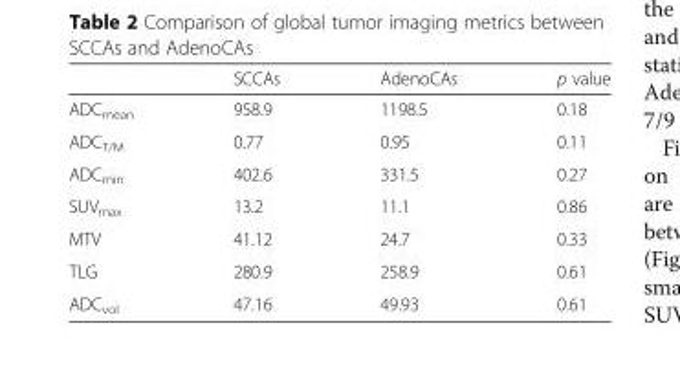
<table><thead><tr><td></td><td>SCCAs</td><td>AdenoCAs</td><td>p value</td></tr></thead><tbody><tr><td>ADC<sub>mean</sub></td><td>958.9</td><td>1198.5</td><td>0.18</td></tr><tr><td>ADC<sub>T/M</sub></td><td>0.77</td><td>0.95</td><td>0.11</td></tr><tr><td>ADC<sub>min</sub></td><td>402.6</td><td>331.5</td><td>0.27</td></tr><tr><td>SUV<sub>max</sub></td><td>13.2</td><td>11.1</td><td>0.86</td></tr><tr><td>MTV</td><td>41.12</td><td>24.7</td><td>0.33</td></tr><tr><td>TLG</td><td>280.9</td><td>258.9</td><td>0.61</td></tr><tr><td>ADC<sub>vol</sub></td><td>47.16</td><td>49.93</td><td>0.61</td></tr></tbody></table>